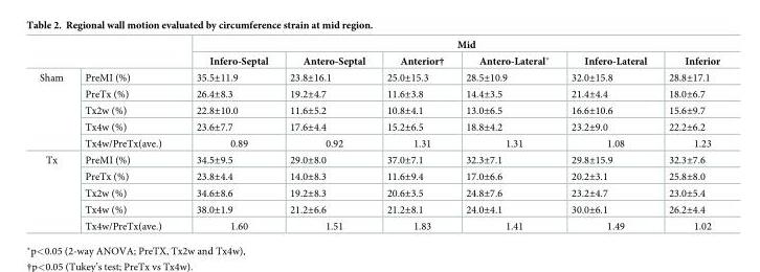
<table><thead><tr><td rowspan="2"></td><td rowspan="2"></td><td colspan="6">Mid</td></tr><tr><td>Infero-Septal</td><td>Antero-Septal</td><td>Anterior†</td><td>Antero-Lateral*</td><td>Infero-Lateral</td><td>Inferior</td></tr></thead><tbody><tr><td rowspan="5">Sham</td><td>PreMI (%)</td><td>35.5±11.9</td><td>23.8±16.1</td><td>25.0±15.3</td><td>28.5±10.9</td><td>32.0±15.8</td><td>28.8±17.1</td></tr><tr><td>PreTx (%)</td><td>26.4±8.3</td><td>19.2±4.7</td><td>11.6±3.8</td><td>14.4±3.5</td><td>21.4±4.4</td><td>18.0±6.7</td></tr><tr><td>Tx2w (%)</td><td>22.8±10.0</td><td>11.6±5.2</td><td>10.8±4.1</td><td>13.0±6.5</td><td>16.6±10.6</td><td>15.6±9.7</td></tr><tr><td>Tx4w (%)</td><td>23.6±7.7</td><td>17.6±4.4</td><td>15.2±6.5</td><td>18.8±4.2</td><td>23.2±9.0</td><td>22.2±6.2</td></tr><tr><td>Tx4w/PreTx(ave.)</td><td>0.89</td><td>0.92</td><td>1.31</td><td>1.31</td><td>1.08</td><td>1.23</td></tr><tr><td rowspan="5">Tx</td><td>PreMI (%)</td><td>34.5±9.5</td><td>29.0±8.0</td><td>37.0±7.1</td><td>32.3±7.1</td><td>29.8±15.9</td><td>32.3±7.6</td></tr><tr><td>PreTx (%)</td><td>23.8±4.4</td><td>14.0±8.3</td><td>11.6±9.4</td><td>17.0±6.6</td><td>20.2±3.1</td><td>25.8±8.0</td></tr><tr><td>Tx2w (%)</td><td>34.6±8.6</td><td>19.2±8.3</td><td>20.6±3.5</td><td>24.8±7.6</td><td>23.2±4.7</td><td>23.0±5.4</td></tr><tr><td>Tx4w (%)</td><td>38.0±1.9</td><td>21.2±6.6</td><td>21.2±8.1</td><td>24.0±4.1</td><td>30.0±6.1</td><td>26.2±4.4</td></tr><tr><td>Tx4w/PreTx(ave.)</td><td>1.60</td><td>1.51</td><td>1.83</td><td>1.41</td><td>1.49</td><td>1.02</td></tr></tbody></table>